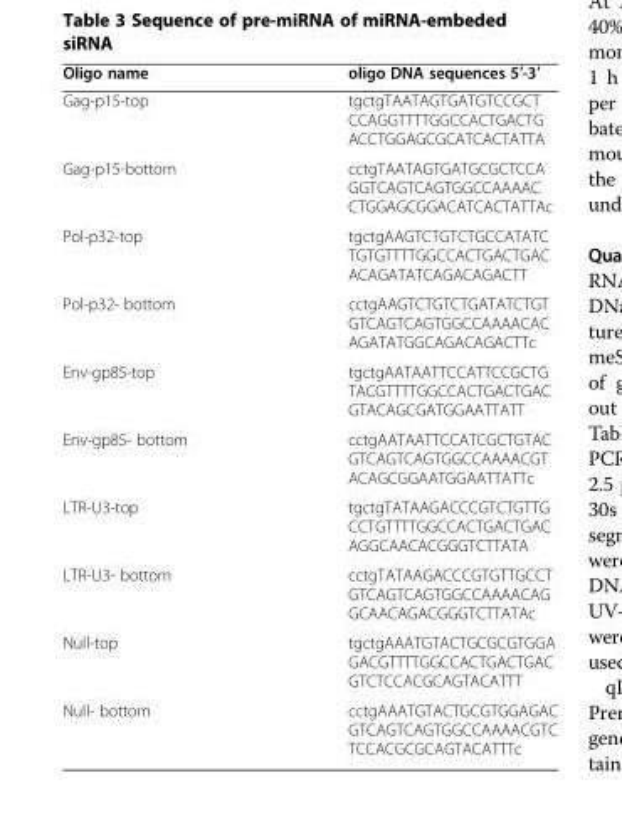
<table><thead><tr><td>Oligo name</td><td>oligo DNA sequences 5′-3′</td></tr></thead><tbody><tr><td>Gag-p15-top</td><td>tgctgTAATAGTGATGTCCGCT CCAGGTTTTGGCCACTGACTG ACCTGGAGCGCATCACTATTA</td></tr><tr><td>Gag-p15-bottom</td><td>cctgTAATAGTGATGCGCTCCA GGTCAGTCAGTGGCCAAAAC CTGGAGCGGACATCACTATTAc</td></tr><tr><td>Pol-p32-top</td><td>tgctgAAGTCTGTCTGCCATATC TGTGTTTTGGCCACTGACTGAC ACAGATATCAGACAGACTT</td></tr><tr><td>Pol-p32- bottom</td><td>cctgAAGTCTGTCTGATATCTGT GTCAGTCAGTGGCCAAAACAC AGATATGGCAGACAGACTTc</td></tr><tr><td>Env-gp85-top</td><td>tgctgAATAATTCCATTCCGCTG TACGTTTTGGCCACTGACTGAC GTACAGCGATGGAATTATT</td></tr><tr><td>Env-gp85- bottom</td><td>cctgAATAATTCCATCGCTGTAC GTCAGTCAGTGGCCAAAACGT ACAGCGGAATGGAATTATTc</td></tr><tr><td>LTR-U3-top</td><td>tgctgTATAAGACCCGTCTGTTG CCTGTTTTGGCCACTGACTGAC AGGCAACACGGGTCTTATA</td></tr><tr><td>LTR-U3- bottom</td><td>cctgTATAAGACCCGTGTTGCCT GTCAGTCAGTGGCCAAAACAG GCAACAGACGGGTCTTATAc</td></tr><tr><td>Null-top</td><td>tgctgAAATGTACTGCGCGTGGA GACGTTTTGGCCACTGACTGAC GTCTCCACGCAGTACATTT</td></tr><tr><td>Null- bottom</td><td>cctgAAATGTACTGCGTGGAGAC GTCAGTCAGTGGCCAAAACGTC TCCACGCGCAGTACATTTc</td></tr></tbody></table>